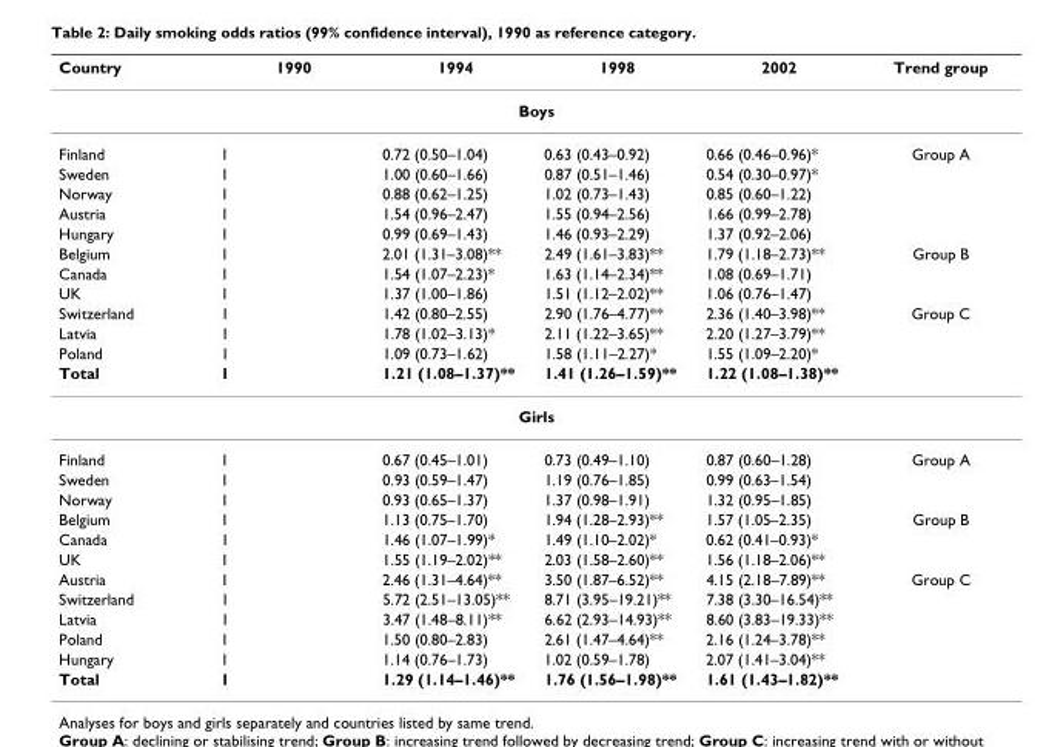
<table><thead><tr><td>Country</td><td>1990</td><td>1994</td><td>1998</td><td>2002</td><td>Trend group</td></tr></thead><tbody><tr><td colspan="6">Boys</td></tr><tr><td>Finland</td><td>1</td><td>0.72 (0.50–1.04)</td><td>0.63 (0.43–0.92)</td><td>0.66 (0.46–0.96)*</td><td>Group A</td></tr><tr><td>Sweden</td><td>1</td><td>1.00 (0.60–1.66)</td><td>0.87 (0.51–1.46)</td><td>0.54 (0.30–0.97)*</td><td></td></tr><tr><td>Norway</td><td>1</td><td>0.88 (0.62–1.25)</td><td>1.02 (0.73–1.43)</td><td>0.85 (0.60–1.22)</td><td></td></tr><tr><td>Austria</td><td>1</td><td>1.54 (0.96–2.47)</td><td>1.55 (0.94–2.56)</td><td>1.66 (0.99–2.78)</td><td></td></tr><tr><td>Hungary</td><td>1</td><td>0.99 (0.69–1.43)</td><td>1.46 (0.93–2.29)</td><td>1.37 (0.92–2.06)</td><td></td></tr><tr><td>Belgium</td><td>1</td><td>2.01 (1.31–3.08)**</td><td>2.49 (1.61–3.83)**</td><td>1.79 (1.18–2.73)**</td><td>Group B</td></tr><tr><td>Canada</td><td>1</td><td>1.54 (1.07–2.23)*</td><td>1.63 (1.14–2.34)**</td><td>1.08 (0.69–1.71)</td><td></td></tr><tr><td>UK</td><td>1</td><td>1.37 (1.00–1.86)</td><td>1.51 (1.12–2.02)**</td><td>1.06 (0.76–1.47)</td><td></td></tr><tr><td>Switzerland</td><td>1</td><td>1.42 (0.80–2.55)</td><td>2.90 (1.76–4.77)**</td><td>2.36 (1.40–3.98)**</td><td>Group C</td></tr><tr><td>Latvia</td><td>1</td><td>1.78 (1.02–3.13)*</td><td>2.11 (1.22–3.65)**</td><td>2.20 (1.27–3.79)**</td><td></td></tr><tr><td>Poland</td><td>1</td><td>1.09 (0.73–1.62)</td><td>1.58 (1.11–2.27)*</td><td>1.55 (1.09–2.20)*</td><td></td></tr><tr><td>Total</td><td>1</td><td>1.21 (1.08–1.37)**</td><td>1.41 (1.26–1.59)**</td><td>1.22 (1.08–1.38)**</td><td></td></tr><tr><td colspan="6">Girls</td></tr><tr><td>Finland</td><td>1</td><td>0.67 (0.45–1.01)</td><td>0.73 (0.49–1.10)</td><td>0.87 (0.60–1.28)</td><td>Group A</td></tr><tr><td>Sweden</td><td>1</td><td>0.93 (0.59–1.47)</td><td>1.19 (0.76–1.85)</td><td>0.99 (0.63–1.54)</td><td></td></tr><tr><td>Norway</td><td>1</td><td>0.93 (0.65–1.37)</td><td>1.37 (0.98–1.91)</td><td>1.32 (0.95–1.85)</td><td></td></tr><tr><td>Belgium</td><td>1</td><td>1.13 (0.75–1.70)</td><td>1.94 (1.28–2.93)**</td><td>1.57 (1.05–2.35)</td><td>Group B</td></tr><tr><td>Canada</td><td>1</td><td>1.46 (1.07–1.99)*</td><td>1.49 (1.10–2.02)*</td><td>0.62 (0.41–0.93)*</td><td></td></tr><tr><td>UK</td><td>1</td><td>1.55 (1.19–2.02)**</td><td>2.03 (1.58–2.60)**</td><td>1.56 (1.18–2.06)**</td><td></td></tr><tr><td>Austria</td><td>1</td><td>2.46 (1.31–4.64)**</td><td>3.50 (1.87–6.52)**</td><td>4.15 (2.18–7.89)**</td><td>Group C</td></tr><tr><td>Switzerland</td><td>1</td><td>5.72 (2.51–13.05)**</td><td>8.71 (3.95–19.21)**</td><td>7.38 (3.30–16.54)**</td><td></td></tr><tr><td>Latvia</td><td>1</td><td>3.47 (1.48–8.11)**</td><td>6.62 (2.93–14.93)**</td><td>8.60 (3.83–19.33)**</td><td></td></tr><tr><td>Poland</td><td>1</td><td>1.50 (0.80–2.83)</td><td>2.61 (1.47–4.64)**</td><td>2.16 (1.24–3.78)**</td><td></td></tr><tr><td>Hungary</td><td>1</td><td>1.14 (0.76–1.73)</td><td>1.02 (0.59–1.78)</td><td>2.07 (1.41–3.04)**</td><td></td></tr><tr><td>Total</td><td>1</td><td>1.29 (1.14–1.46)**</td><td>1.76 (1.56–1.98)**</td><td>1.61 (1.43–1.82)**</td><td></td></tr></tbody></table>